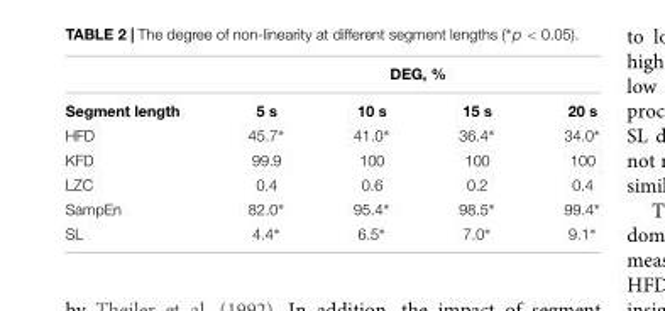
<table><thead><tr><td rowspan="2">Segment length</td><td colspan="4">DEG, %</td></tr><tr><td>5 s</td><td>10 s</td><td>15 s</td><td>20 s</td></tr></thead><tbody><tr><td>HFD</td><td>45.7∗</td><td>41.0∗</td><td>36.4∗</td><td>34.0∗</td></tr><tr><td>KFD</td><td>99.9</td><td>100</td><td>100</td><td>100</td></tr><tr><td>LZC</td><td>0.4</td><td>0.6</td><td>0.2</td><td>0.4</td></tr><tr><td>SampEn</td><td>82.0∗</td><td>95.4∗</td><td>98.5∗</td><td>99.4∗</td></tr><tr><td>SL</td><td>4.4∗</td><td>6.5∗</td><td>7.0∗</td><td>9.1∗</td></tr></tbody></table>